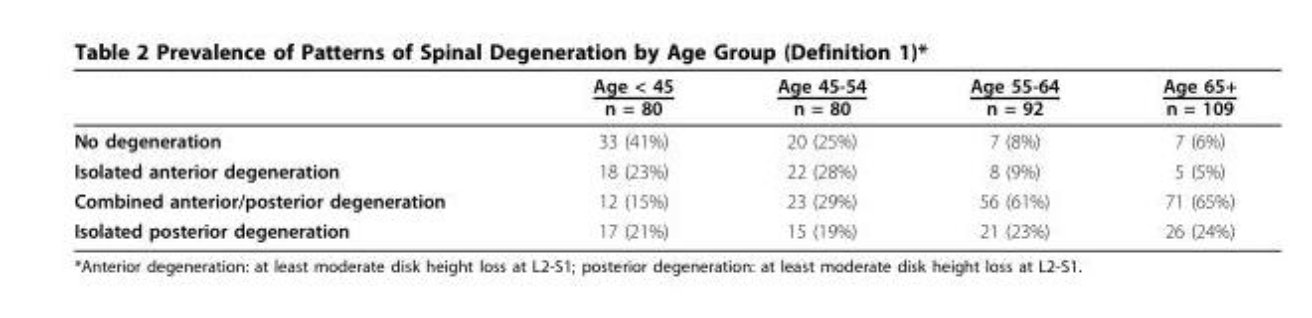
<table><thead><tr><td></td><td>Age &lt; 45 n = 80</td><td>Age 45-54 n = 80</td><td>Age 55-64 n = 92</td><td>Age 65+ n = 109</td></tr></thead><tbody><tr><td>No degeneration</td><td>33 (41%)</td><td>20 (25%)</td><td>7 (8%)</td><td>7 (6%)</td></tr><tr><td>Isolated anterior degeneration</td><td>18 (23%)</td><td>22 (28%)</td><td>8 (9%)</td><td>5 (5%)</td></tr><tr><td>Combined anterior/posterior degeneration</td><td>12 (15%)</td><td>23 (29%)</td><td>56 (61%)</td><td>71 (65%)</td></tr><tr><td>Isolated posterior degeneration</td><td>17 (21%)</td><td>15 (19%)</td><td>21 (23%)</td><td>26 (24%)</td></tr></tbody></table>